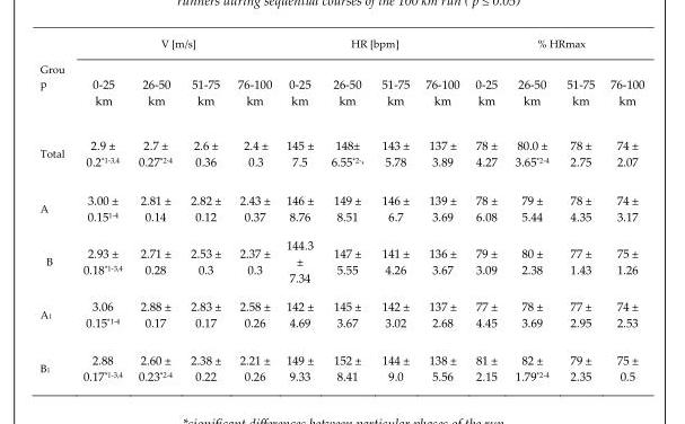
<table><thead><tr><td rowspan="2">Grou p</td><td colspan="4">V [m/s]</td><td colspan="4">HR [bpm]</td><td colspan="4">% HRmax</td></tr><tr><td>0-25 km</td><td>26-50 km</td><td>51-75 km</td><td>76-100 km</td><td>0-25 km</td><td>26-50 km</td><td>51-75 km</td><td>76-100 km</td><td>0-25 km</td><td>26-50 km</td><td>51-75 km</td><td>76-100 km</td></tr></thead><tbody><tr><td>Total</td><td>2.9 ± 0.2<sup>*1-3,4</sup></td><td>2.7 ± 0.27<sup>*2-4</sup></td><td>2.6 ± 0.36</td><td>2.4 ± 0.3</td><td>145 ± 7.5</td><td>148± 6.55<sup>*2-4</sup></td><td>143 ± 5.78</td><td>137 ± 3.89</td><td>78 ± 4.27</td><td>80.0 ± 3.65<sup>*2-4</sup></td><td>78 ± 2.75</td><td>74 ± 2.07</td></tr><tr><td>A</td><td>3.00 ± 0.15<sup>1-4</sup></td><td>2.81 ± 0.14</td><td>2.82 ± 0.12</td><td>2.43 ± 0.37</td><td>146 ± 8.76</td><td>149 ± 8.51</td><td>146 ± 6.7</td><td>139 ± 3.69</td><td>78 ± 6.08</td><td>79 ± 5.44</td><td>78 ± 4.35</td><td>74 ± 3.17</td></tr><tr><td>B</td><td>2.93 ± 0.18<sup>*1-3,4</sup></td><td>2.71 ± 0.28</td><td>2.53 ± 0.3</td><td>2.37 ± 0.3</td><td>144.3 ± 7.34</td><td>147 ± 5.55</td><td>141 ± 4.26</td><td>136 ± 3.67</td><td>79 ± 3.09</td><td>80 ± 2.38</td><td>77 ± 1.43</td><td>75 ± 1.26</td></tr><tr><td>A<sub>1</sub></td><td>3.06 0.15<sup>*1-4</sup></td><td>2.88 ± 0.17</td><td>2.83 ± 0.17</td><td>2.58 ± 0.26</td><td>142 ± 4.69</td><td>145 ± 3.67</td><td>142 ± 3.02</td><td>137 ± 2.68</td><td>77 ± 4.45</td><td>78 ± 3.69</td><td>77 ± 2.95</td><td>74 ± 2.53</td></tr><tr><td>B<sub>1</sub></td><td>2.88 0.17<sup>*1-3,4</sup></td><td>2.60 ± 0.23<sup>*2-4</sup></td><td>2.38 ± 0.22</td><td>2.21 ± 0.26</td><td>149 ± 9.33</td><td>152 ± 8.41</td><td>144 ± 9.0</td><td>138 ± 5.56</td><td>81 ± 2.15</td><td>82 ± 1.79<sup>*2-4</sup></td><td>79 ± 2.35</td><td>75 ± 0.5</td></tr></tbody></table>